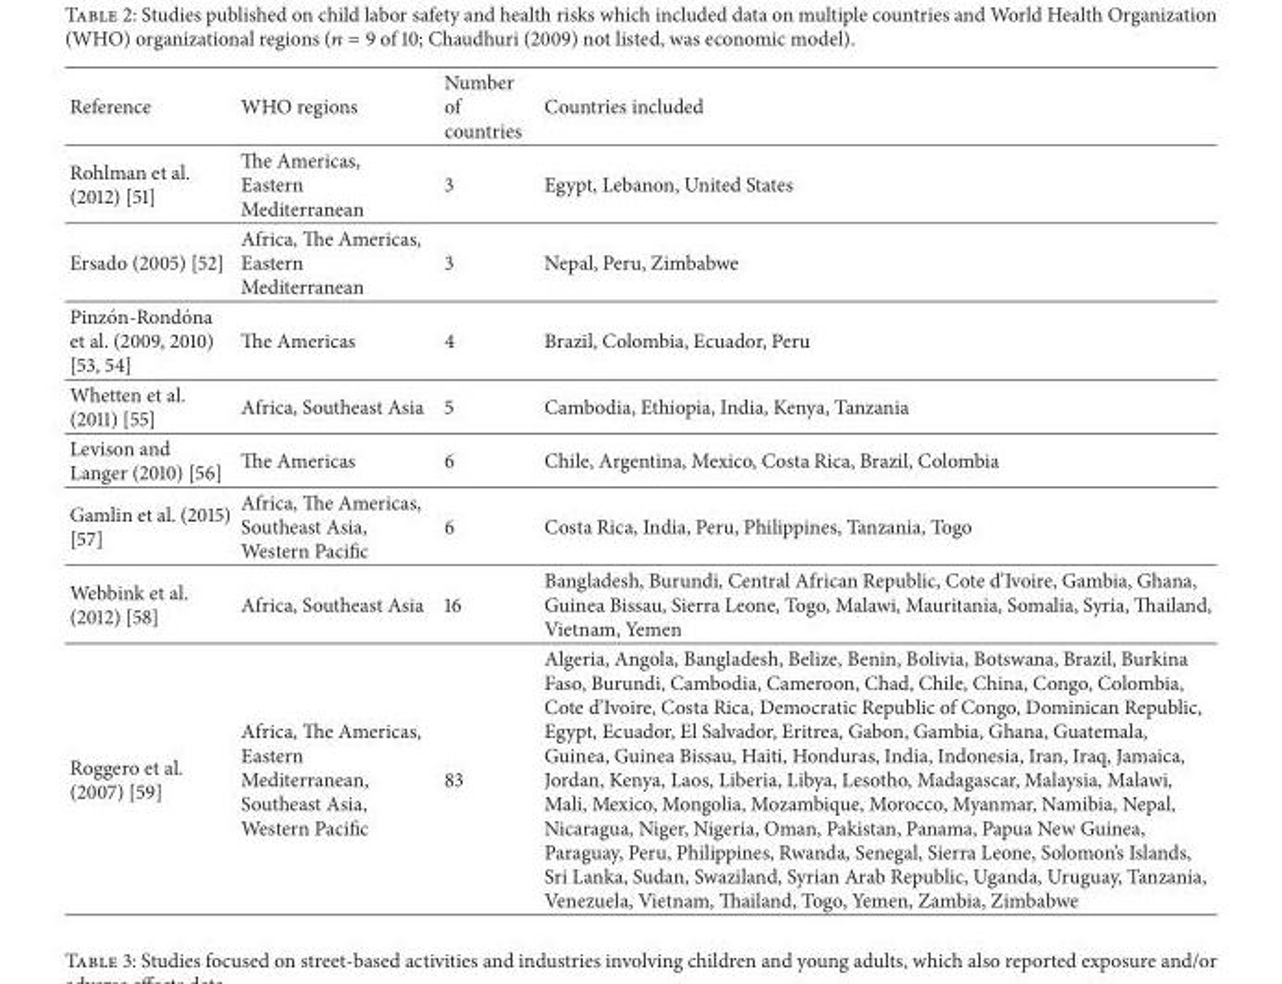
<table><thead><tr><td>Reference</td><td>WHO regions</td><td>Number of countries</td><td>Countries included</td></tr></thead><tbody><tr><td>Rohlman et al. (2012) [51]</td><td>The Americas, Eastern Mediterranean</td><td>3</td><td>Egypt, Lebanon, United States</td></tr><tr><td>Ersado (2005) [52]</td><td>Africa, The Americas, Eastern Mediterranean</td><td>3</td><td>Nepal, Peru, Zimbabwe</td></tr><tr><td>Pinz´on-Rond´ona et al. (2009, 2010) [53, 54]</td><td>The Americas</td><td>4</td><td>Brazil, Colombia, Ecuador, Peru</td></tr><tr><td>Whetten et al. (2011) [55]</td><td>Africa, Southeast Asia</td><td>5</td><td>Cambodia, Ethiopia, India, Kenya, Tanzania</td></tr><tr><td>Levison and Langer (2010) [56]</td><td>The Americas</td><td>6</td><td>Chile, Argentina, Mexico, Costa Rica, Brazil, Colombia</td></tr><tr><td>Gamlin et al. (2015) [57]</td><td>Africa, The Americas, Southeast Asia, Western Pacific</td><td>6</td><td>Costa Rica, India, Peru, Philippines, Tanzania, Togo</td></tr><tr><td>Webbink et al. (2012) [58]</td><td>Africa, Southeast Asia</td><td>16</td><td>Bangladesh, Burundi, Central African Republic, Cote d’Ivoire, Gambia, Ghana, Guinea Bissau, Sierra Leone, Togo, Malawi, Mauritania, Somalia, Syria, Thailand, Vietnam, Yemen</td></tr><tr><td>Roggero et al. (2007) [59]</td><td>Africa, The Americas, Eastern Mediterranean, Southeast Asia, Western Pacific</td><td>83</td><td>Algeria, Angola, Bangladesh, Belize, Benin, Bolivia, Botswana, Brazil, Burkina Faso, Burundi, Cambodia, Cameroon, Chad, Chile, China, Congo, Colombia, Cote d’Ivoire, Costa Rica, Democratic Republic of Congo, Dominican Republic, Egypt, Ecuador, El Salvador, Eritrea, Gabon, Gambia, Ghana, Guatemala, Guinea, Guinea Bissau, Haiti, Honduras, India, Indonesia, Iran, Iraq, Jamaica, Jordan, Kenya, Laos, Liberia, Libya, Lesotho, Madagascar, Malaysia, Malawi, Mali, Mexico, Mongolia, Mozambique, Morocco, Myanmar, Namibia, Nepal, Nicaragua, Niger, Nigeria, Oman, Pakistan, Panama, Papua New Guinea, Paraguay, Peru, Philippines, Rwanda, Senegal, Sierra Leone, Solomon’s Islands, Sri Lanka, Sudan, Swaziland, Syrian Arab Republic, Uganda, Uruguay, Tanzania, Venezuela, Vietnam, Thailand, Togo, Yemen, Zambia, Zimbabwe</td></tr></tbody></table>